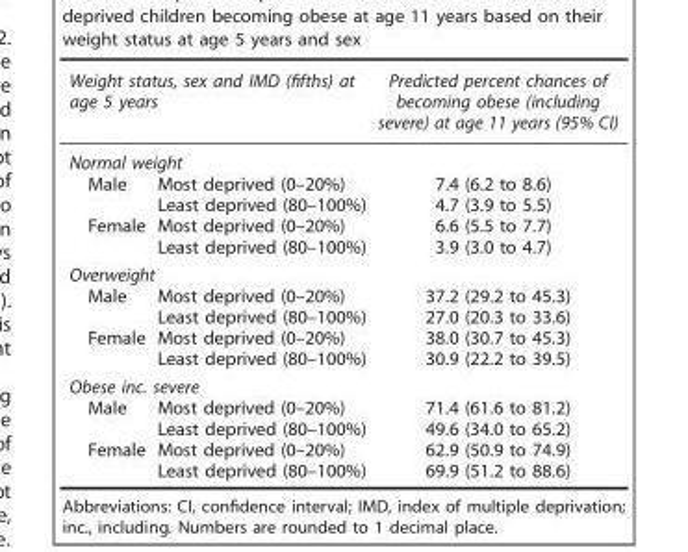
<table><thead><tr><td colspan="2">Weight status, sex and IMD (fifths) at age 5 years</td><td>Predicted percent chances of becoming obese (including severe) at age 11 years (95% CI)</td></tr><tr><td colspan="3">Normal weight</td></tr><tr><td>Male</td><td>Most deprived (0–20%)</td><td>7.4 (6.2 to 8.6)</td></tr></thead><tbody><tr><td></td><td>Least deprived (80–100%)</td><td>4.7 (3.9 to 5.5)</td></tr><tr><td rowspan="2">Female</td><td>Most deprived (0–20%)</td><td>6.6 (5.5 to 7.7)</td></tr><tr><td>Least deprived (80–100%)</td><td>3.9 (3.0 to 4.7)</td></tr><tr><td colspan="3">Overweight</td></tr><tr><td rowspan="2">Male</td><td>Most deprived (0–20%)</td><td>37.2 (29.2 to 45.3)</td></tr><tr><td>Least deprived (80–100%)</td><td>27.0 (20.3 to 33.6)</td></tr><tr><td rowspan="2">Female</td><td>Most deprived (0–20%)</td><td>38.0 (30.7 to 45.3)</td></tr><tr><td>Least deprived (80–100%)</td><td>30.9 (22.2 to 39.5)</td></tr><tr><td colspan="3">Obese inc. severe</td></tr><tr><td rowspan="2">Male</td><td>Most deprived (0–20%)</td><td>71.4 (61.6 to 81.2)</td></tr><tr><td>Least deprived (80–100%)</td><td>49.6 (34.0 to 65.2)</td></tr><tr><td rowspan="2">Female</td><td>Most deprived (0–20%)</td><td>62.9 (50.9 to 74.9)</td></tr><tr><td>Least deprived (80–100%)</td><td>69.9 (51.2 to 88.6)</td></tr></tbody></table>